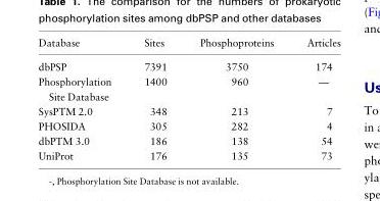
<table><thead><tr><td>Database</td><td>Sites</td><td>Phosphoproteins</td><td>Articles</td></tr></thead><tbody><tr><td>dbPSP</td><td>7391</td><td>3750</td><td>174</td></tr><tr><td>Phosphorylation Site Database</td><td>1400</td><td>960</td><td>—</td></tr><tr><td>SysPTM 2.0</td><td>348</td><td>213</td><td>7</td></tr><tr><td>PHOSIDA</td><td>305</td><td>282</td><td>4</td></tr><tr><td>dbPTM 3.0</td><td>186</td><td>138</td><td>54</td></tr><tr><td>UniProt</td><td>176</td><td>135</td><td>73</td></tr></tbody></table>